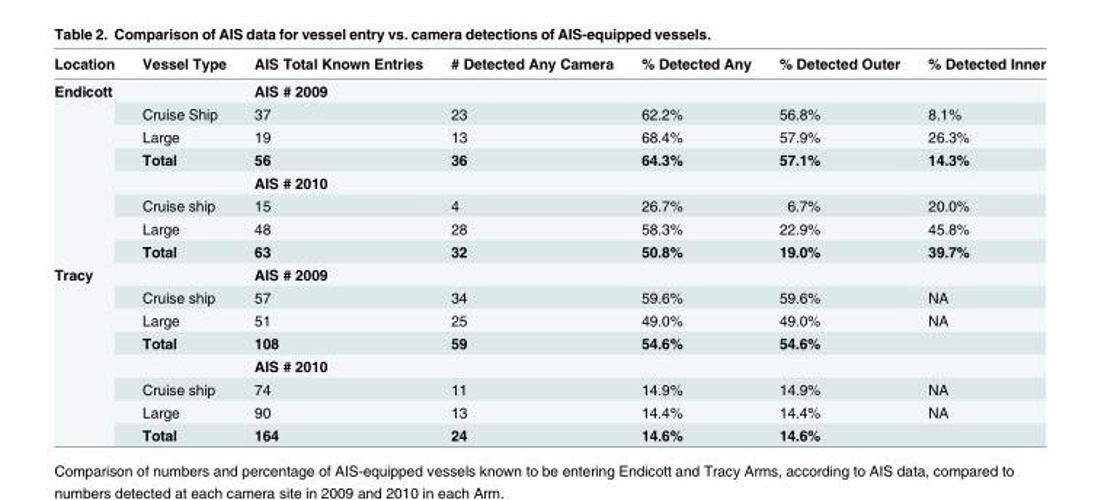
<table><thead><tr><td>Location</td><td>Vessel Type</td><td>AIS Total Known Entries</td><td># Detected Any Camera</td><td>% Detected Any</td><td>% Detected Outer</td><td>% Detected Inner</td></tr></thead><tbody><tr><td rowspan="8">Endicott</td><td></td><td>AIS # 2009</td><td></td><td></td><td></td><td></td></tr><tr><td>Cruise Ship</td><td>37</td><td>23</td><td>62.2%</td><td>56.8%</td><td>8.1%</td></tr><tr><td>Large</td><td>19</td><td>13</td><td>68.4%</td><td>57.9%</td><td>26.3%</td></tr><tr><td>Total</td><td>56</td><td>36</td><td>64.3%</td><td>57.1%</td><td>14.3%</td></tr><tr><td></td><td>AIS # 2010</td><td></td><td></td><td></td><td></td></tr><tr><td>Cruise ship</td><td>15</td><td>4</td><td>26.7%</td><td>6.7%</td><td>20.0%</td></tr><tr><td>Large</td><td>48</td><td>28</td><td>58.3%</td><td>22.9%</td><td>45.8%</td></tr><tr><td>Total</td><td>63</td><td>32</td><td>50.8%</td><td>19.0%</td><td>39.7%</td></tr><tr><td rowspan="8">Tracy</td><td></td><td>AIS # 2009</td><td></td><td></td><td></td><td></td></tr><tr><td>Cruise ship</td><td>57</td><td>34</td><td>59.6%</td><td>59.6%</td><td>NA</td></tr><tr><td>Large</td><td>51</td><td>25</td><td>49.0%</td><td>49.0%</td><td>NA</td></tr><tr><td>Total</td><td>108</td><td>59</td><td>54.6%</td><td>54.6%</td><td></td></tr><tr><td></td><td>AIS # 2010</td><td></td><td></td><td></td><td></td></tr><tr><td>Cruise ship</td><td>74</td><td>11</td><td>14.9%</td><td>14.9%</td><td>NA</td></tr><tr><td>Large</td><td>90</td><td>13</td><td>14.4%</td><td>14.4%</td><td>NA</td></tr><tr><td>Total</td><td>164</td><td>24</td><td>14.6%</td><td>14.6%</td><td></td></tr></tbody></table>